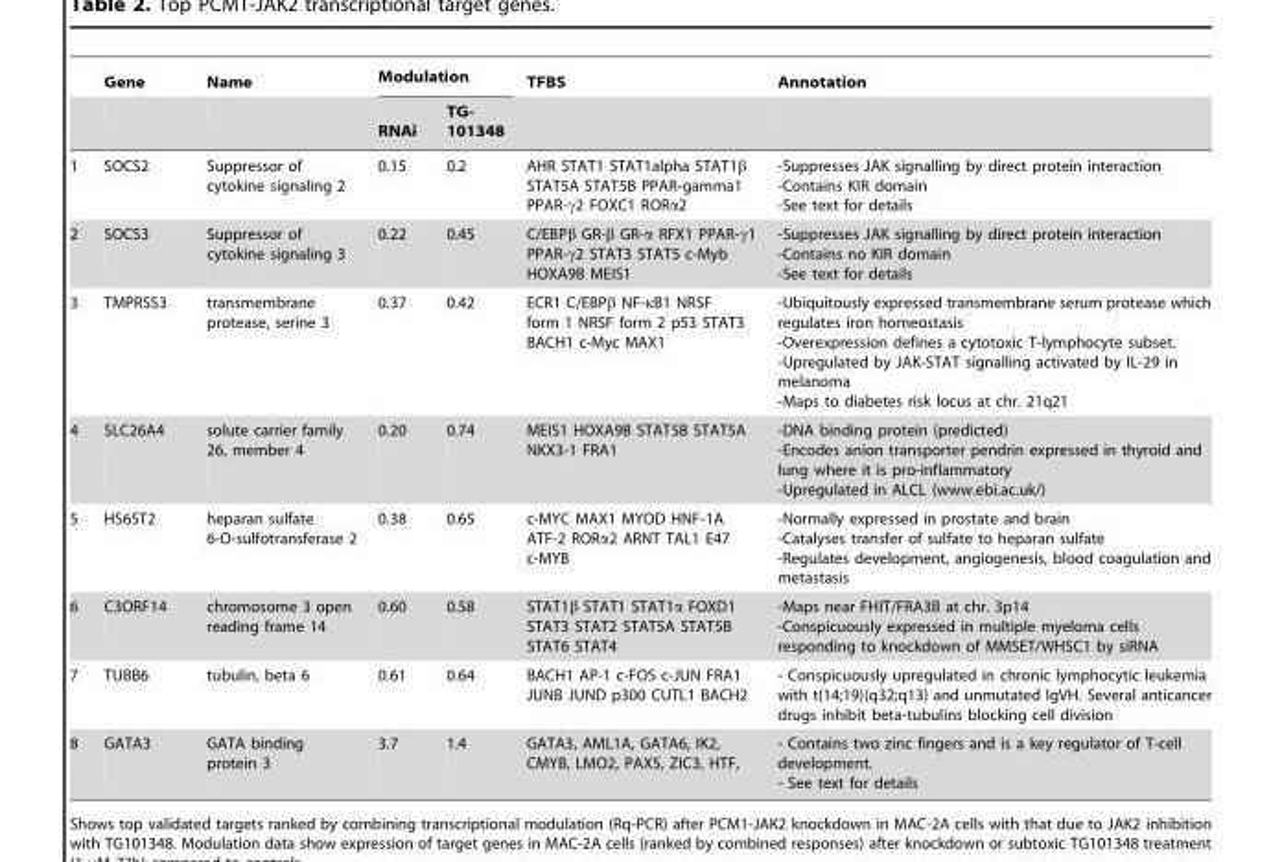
<table><thead><tr><td rowspan="2"></td><td rowspan="2">Gene</td><td rowspan="2">Name</td><td colspan="2">Modulation</td><td rowspan="2">TFBS</td><td rowspan="2">Annotation</td></tr><tr><td>RNAi</td><td>TG- 101348</td></tr></thead><tbody><tr><td>1</td><td>SOCS2</td><td>Suppressor of cytokine signaling 2</td><td>0.15</td><td>0.2</td><td>AHR STAT1 STAT1alpha STAT1β STAT5A STAT5B PPAR-gamma1 PPAR-γ2 FOXC1 RORα2</td><td>-Suppresses JAK signalling by direct protein interaction -Contains KIR domain -See text for details</td></tr><tr><td>2</td><td>SOCS3</td><td>Suppressor of cytokine signaling 3</td><td>0.22</td><td>0.45</td><td>C/EBPβ GR-β GR-α RFX1 PPAR-γ1 PPAR-γ2 STAT3 STAT5 c-Myb HOXA9B MEIS1</td><td>-Suppresses JAK signalling by direct protein interaction -Contains no KIR domain -See text for details</td></tr><tr><td>3</td><td>TMPRSS3</td><td>transmembrane protease, serine 3</td><td>0.37</td><td>0.42</td><td>ECR1 C/EBPβ NF-κB1 NRSF form 1 NRSF form 2 p53 STAT3 BACH1 c-Myc MAX1</td><td>-Ubiquitously expressed transmembrane serum protease which regulates iron homeostasis -Overexpression defines a cytotoxic T-lymphocyte subset. -Upregulated by JAK-STAT signalling activated by IL-29 in melanoma -Maps to diabetes risk locus at chr. 21q21</td></tr><tr><td>4</td><td>SLC26A4</td><td>solute carrier family 26, member 4</td><td>0.20</td><td>0.74</td><td>MEIS1 HOXA9B STAT5B STAT5A NKX3-1 FRA1</td><td>-DNA binding protein (predicted) -Encodes anion transporter pendrin expressed in thyroid and lung where it is pro-inflammatory -Upregulated in ALCL (www.ebi.ac.uk/)</td></tr><tr><td>5</td><td>HS6ST2</td><td>heparan sulfate 6-O-sulfotransferase 2</td><td>0.38</td><td>0.65</td><td>c-MYC MAX1 MYOD HNF-1A ATF-2 RORα2 ARNT TAL1 E47 c-MYB</td><td>-Normally expressed in prostate and brain -Catalyses transfer of sulfate to heparan sulfate -Regulates development, angiogenesis, blood coagulation and metastasis</td></tr><tr><td>6</td><td>C3ORF14</td><td>chromosome 3 open reading frame 14</td><td>0.60</td><td>0.58</td><td>STAT1β STAT1 STAT1α FOXD1 STAT3 STAT2 STAT5A STAT5B STAT6 STAT4</td><td>-Maps near FHIT/FRA3B at chr. 3p14 -Conspicuously expressed in multiple myeloma cells responding to knockdown of MMSET/WHSC1 by siRNA</td></tr><tr><td>7</td><td>TUBB6</td><td>tubulin, beta 6</td><td>0.61</td><td>0.64</td><td>BACH1 AP-1 c-FOS c-JUN FRA1 JUNB JUND p300 CUTL1 BACH2</td><td>- Conspicuously upregulated in chronic lymphocytic leukemia with t(14;19)(q32;q13) and unmutated IgVH. Several anticancer drugs inhibit beta-tubulins blocking cell division</td></tr><tr><td>8</td><td>GATA3</td><td>GATA binding protein 3</td><td>3.7</td><td>1.4</td><td>GATA3, AML1A, GATA6, IK2, CMYB, LMO2, PAX5, ZIC3, HTF,</td><td>- Contains two zinc fingers and is a key regulator of T-cell development. - See text for details</td></tr></tbody></table>